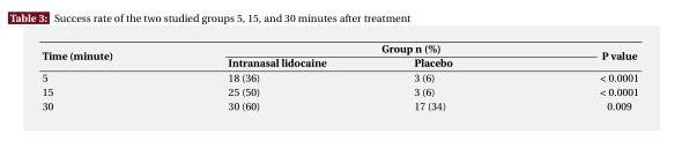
<table><thead><tr><td rowspan="2">Time (minute)</td><td colspan="2">Group n (%)</td><td rowspan="2">P value</td></tr><tr><td>Intranasal lidocaine</td><td>Placebo</td></tr></thead><tbody><tr><td>5</td><td>18 (36)</td><td>3 (6)</td><td>&lt; 0.0001</td></tr><tr><td>15</td><td>25 (50)</td><td>3 (6)</td><td>&lt; 0.0001</td></tr><tr><td>30</td><td>30 (60)</td><td>17 (34)</td><td>0.009</td></tr></tbody></table>